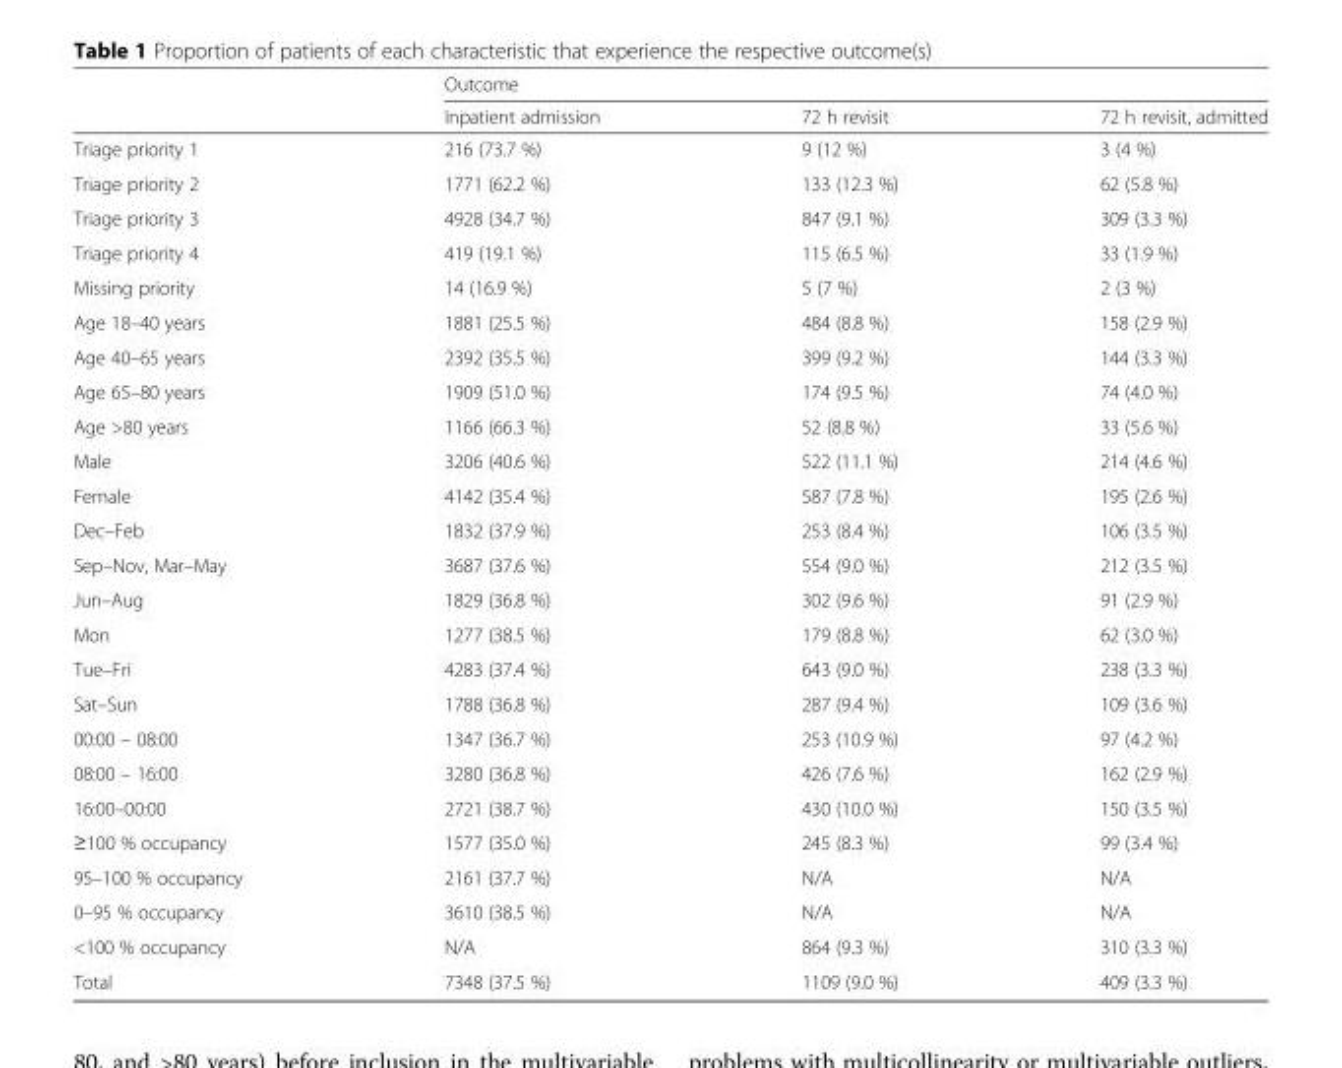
<table><thead><tr><td rowspan="2"></td><td colspan="3">Outcome</td></tr><tr><td>Inpatient admission</td><td>72 h revisit</td><td>72 h revisit, admitted</td></tr></thead><tbody><tr><td>Triage priority 1</td><td>216 (73.7 %)</td><td>9 (12 %)</td><td>3 (4 %)</td></tr><tr><td>Triage priority 2</td><td>1771 (62.2 %)</td><td>133 (12.3 %)</td><td>62 (5.8 %)</td></tr><tr><td>Triage priority 3</td><td>4928 (34.7 %)</td><td>847 (9.1 %)</td><td>309 (3.3 %)</td></tr><tr><td>Triage priority 4</td><td>419 (19.1 %)</td><td>115 (6.5 %)</td><td>33 (1.9 %)</td></tr><tr><td>Missing priority</td><td>14 (16.9 %)</td><td>5 (7 %)</td><td>2 (3 %)</td></tr><tr><td>Age 18–40 years</td><td>1881 (25.5 %)</td><td>484 (8.8 %)</td><td>158 (2.9 %)</td></tr><tr><td>Age 40–65 years</td><td>2392 (35.5 %)</td><td>399 (9.2 %)</td><td>144 (3.3 %)</td></tr><tr><td>Age 65–80 years</td><td>1909 (51.0 %)</td><td>174 (9.5 %)</td><td>74 (4.0 %)</td></tr><tr><td>Age &gt;80 years</td><td>1166 (66.3 %)</td><td>52 (8.8 %)</td><td>33 (5.6 %)</td></tr><tr><td>Male</td><td>3206 (40.6 %)</td><td>522 (11.1 %)</td><td>214 (4.6 %)</td></tr><tr><td>Female</td><td>4142 (35.4 %)</td><td>587 (7.8 %)</td><td>195 (2.6 %)</td></tr><tr><td>Dec–Feb</td><td>1832 (37.9 %)</td><td>253 (8.4 %)</td><td>106 (3.5 %)</td></tr><tr><td>Sep–Nov, Mar–May</td><td>3687 (37.6 %)</td><td>554 (9.0 %)</td><td>212 (3.5 %)</td></tr><tr><td>Jun–Aug</td><td>1829 (36.8 %)</td><td>302 (9.6 %)</td><td>91 (2.9 %)</td></tr><tr><td>Mon</td><td>1277 (38.5 %)</td><td>179 (8.8 %)</td><td>62 (3.0 %)</td></tr><tr><td>Tue–Fri</td><td>4283 (37.4 %)</td><td>643 (9.0 %)</td><td>238 (3.3 %)</td></tr><tr><td>Sat–Sun</td><td>1788 (36.8 %)</td><td>287 (9.4 %)</td><td>109 (3.6 %)</td></tr><tr><td>00:00 – 08:00</td><td>1347 (36.7 %)</td><td>253 (10.9 %)</td><td>97 (4.2 %)</td></tr><tr><td>08:00 – 16:00</td><td>3280 (36.8 %)</td><td>426 (7.6 %)</td><td>162 (2.9 %)</td></tr><tr><td>16:00–00:00</td><td>2721 (38.7 %)</td><td>430 (10.0 %)</td><td>150 (3.5 %)</td></tr><tr><td>≥100 % occupancy</td><td>1577 (35.0 %)</td><td>245 (8.3 %)</td><td>99 (3.4 %)</td></tr><tr><td>95–100 % occupancy</td><td>2161 (37.7 %)</td><td>N/A</td><td>N/A</td></tr><tr><td>0–95 % occupancy</td><td>3610 (38.5 %)</td><td>N/A</td><td>N/A</td></tr><tr><td>&lt;100 % occupancy</td><td>N/A</td><td>864 (9.3 %)</td><td>310 (3.3 %)</td></tr><tr><td>Total</td><td>7348 (37.5 %)</td><td>1109 (9.0 %)</td><td>409 (3.3 %)</td></tr></tbody></table>